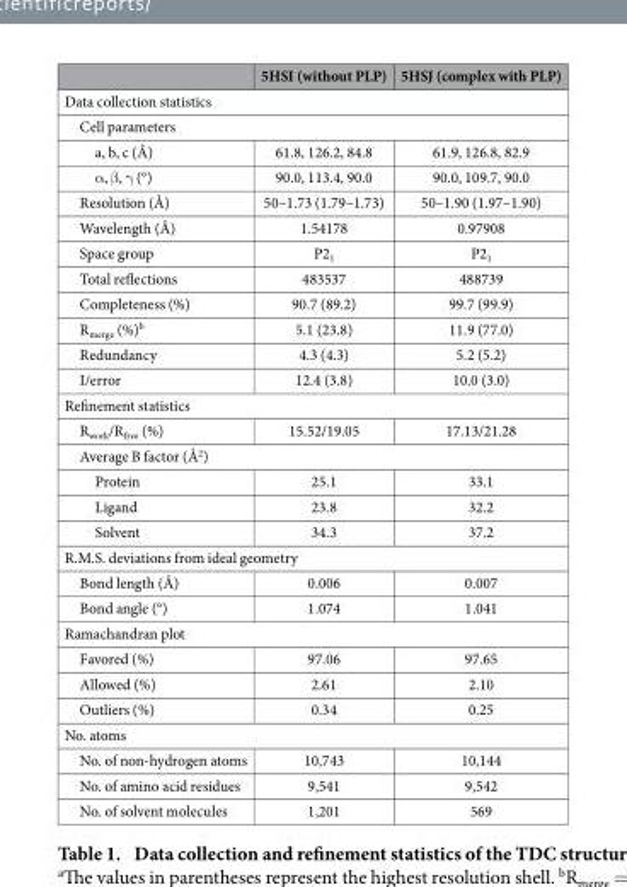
<table><thead><tr><td></td><td>5HSI (without PLP)</td><td>5HSJ (complex with PLP)</td></tr></thead><tbody><tr><td colspan="3">Data collection statistics</td></tr><tr><td colspan="3">Cell parameters</td></tr><tr><td>a, b, c (Å)</td><td>61.8, 126.2, 84.8</td><td>61.9, 126.8, 82.9</td></tr><tr><td>α , β , γ (°)</td><td>90.0, 113.4, 90.0</td><td>90.0, 109.7, 90.0</td></tr><tr><td>Resolution (Å)</td><td>50–1.73 (1.79–1.73)</td><td>50–1.90 (1.97–1.90)</td></tr><tr><td>Wavelength (Å)</td><td>1.54178</td><td>0.97908</td></tr><tr><td>Space group</td><td>P2<sub>1</sub></td><td>P2<sub>1</sub></td></tr><tr><td>Total reflections</td><td>483537</td><td>488739</td></tr><tr><td>Completeness (%)</td><td>90.7 (89.2)</td><td>99.7 (99.9)</td></tr><tr><td>R<sub>merge</sub> (%)<sup>b</sup></td><td>5.1 (23.8)</td><td>11.9 (77.0)</td></tr><tr><td>Redundancy</td><td>4.3 (4.3)</td><td>5.2 (5.2)</td></tr><tr><td>I/error</td><td>12.4 (3.8)</td><td>10.0 (3.0)</td></tr><tr><td colspan="3">Refinement statistics</td></tr><tr><td>R<sub>work</sub>/R<sub>free</sub> (%)</td><td>15.52/19.05</td><td>17.13/21.28</td></tr><tr><td colspan="3">Average B factor (Å<sup>2</sup>)</td></tr><tr><td>Protein</td><td>25.1</td><td>33.1</td></tr><tr><td>Ligand</td><td>23.8</td><td>32.2</td></tr><tr><td>Solvent</td><td>34.3</td><td>37.2</td></tr><tr><td colspan="3">R.M.S. deviations from ideal geometry</td></tr><tr><td>Bond length (Å)</td><td>0.006</td><td>0.007</td></tr><tr><td>Bond angle (°)</td><td>1.074</td><td>1.041</td></tr><tr><td colspan="3">Ramachandran plot</td></tr><tr><td>Favored (%)</td><td>97.06</td><td>97.65</td></tr><tr><td>Allowed (%)</td><td>2.61</td><td>2.10</td></tr><tr><td>Outliers (%)</td><td>0.34</td><td>0.25</td></tr><tr><td colspan="3">No. atoms</td></tr><tr><td>No. of non-hydrogen atoms</td><td>10,743</td><td>10,144</td></tr><tr><td>No. of amino acid residues</td><td>9,541</td><td>9,542</td></tr><tr><td>No. of solvent molecules</td><td>1,201</td><td>569</td></tr></tbody></table>